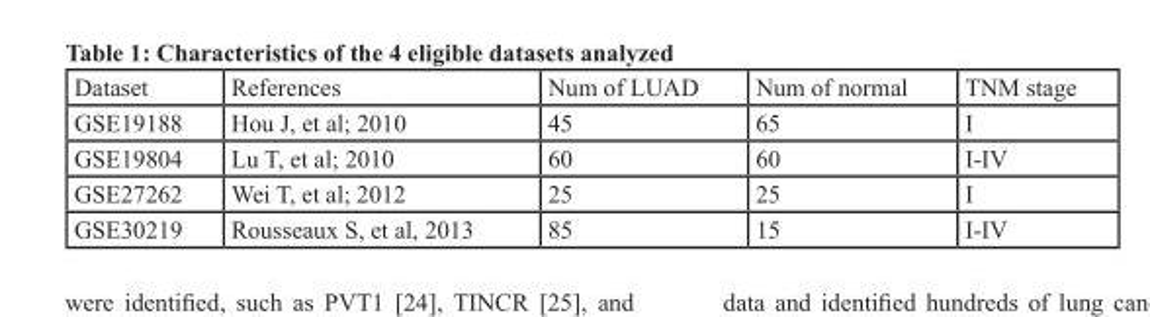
<table><thead><tr><td>Dataset</td><td>References</td><td>Num of LUAD</td><td>Num of normal</td><td>TNM stage</td></tr></thead><tbody><tr><td>GSE19188</td><td>Hou J, et al; 2010</td><td>45</td><td>65</td><td>I</td></tr><tr><td>GSE19804</td><td>Lu T, et al; 2010</td><td>60</td><td>60</td><td>I-IV</td></tr><tr><td>GSE27262</td><td>Wei T, et al; 2012</td><td>25</td><td>25</td><td>I</td></tr><tr><td>GSE30219</td><td>Rousseaux S, et al, 2013</td><td>85</td><td>15</td><td>I-IV</td></tr></tbody></table>